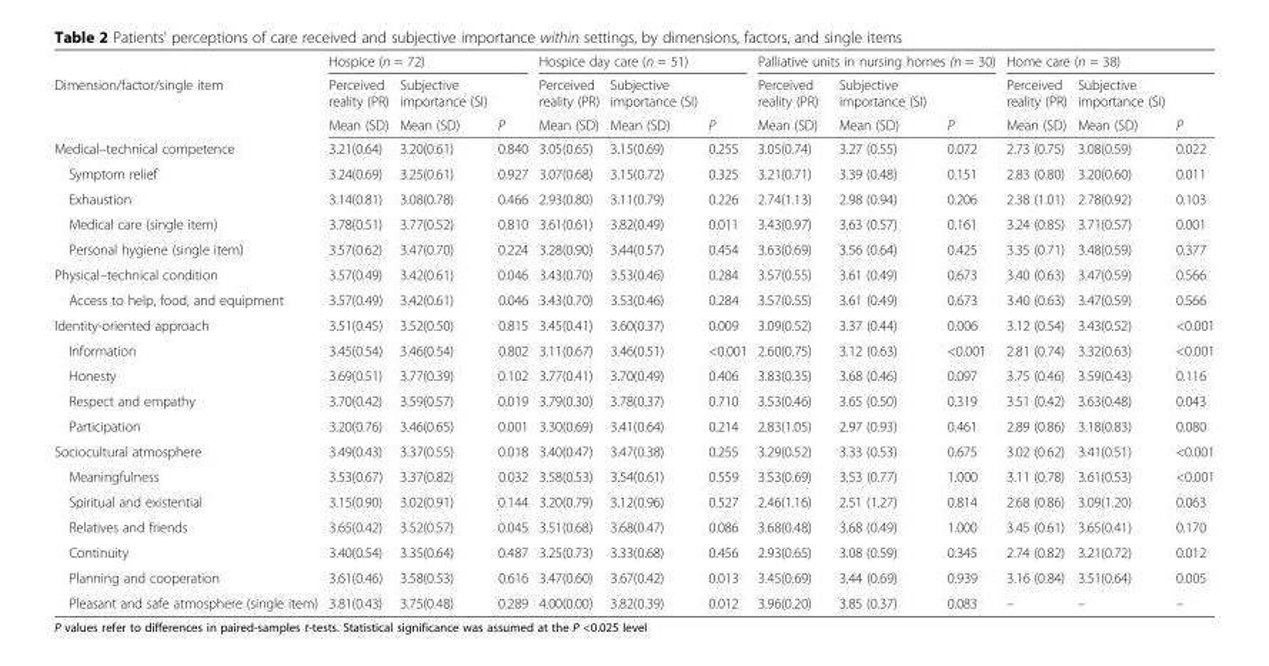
<table><thead><tr><td rowspan="3">Dimension/factor/single item</td><td colspan="3">Hospice (n = 72)</td><td colspan="3">Hospice day care (n = 51)</td><td colspan="3">Palliative units in nursing homes (n = 30)</td><td colspan="3">Home care (n = 38)</td></tr><tr><td rowspan="2">Perceived reality (PR) Mean (SD)</td><td rowspan="2">Subjective importance (SI) Mean (SD)</td><td rowspan="2">P</td><td rowspan="2">Perceived reality (PR) Mean (SD)</td><td rowspan="2">Subjective importance (SI) Mean (SD)</td><td rowspan="2">P</td><td rowspan="2">Perceived reality (PR) Mean (SD)</td><td rowspan="2">Subjective importance (SI) Mean (SD)</td><td rowspan="2">P</td><td rowspan="2">Perceived reality (PR) Mean (SD)</td><td rowspan="2">Subjective importance (SI) Mean (SD)</td><td rowspan="2">P</td></tr><tr></tr></thead><tbody><tr><td>Medical–technical competence</td><td>3.21(0.64)</td><td>3.20(0.61)</td><td>0.840</td><td>3.05(0.65)</td><td>3.15(0.69)</td><td>0.255</td><td>3.05(0.74)</td><td>3.27 (0.55)</td><td>0.072</td><td>2.73 (0.75)</td><td>3.08(0.59)</td><td>0.022</td></tr><tr><td>Symptom relief</td><td>3.24(0.69)</td><td>3.25(0.61)</td><td>0.927</td><td>3.07(0.68)</td><td>3.15(0.72)</td><td>0.325</td><td>3.21(0.71)</td><td>3.39 (0.48)</td><td>0.151</td><td>2.83 (0.80)</td><td>3.20(0.60)</td><td>0.011</td></tr><tr><td>Exhaustion</td><td>3.14(0.81)</td><td>3.08(0.78)</td><td>0.466</td><td>2.93(0.80)</td><td>3.11(0.79)</td><td>0.226</td><td>2.74(1.13)</td><td>2.98 (0.94)</td><td>0.206</td><td>2.38 (1.01)</td><td>2.78(0.92)</td><td>0.103</td></tr><tr><td>Medical care (single item)</td><td>3.78(0.51)</td><td>3.77(0.52)</td><td>0.810</td><td>3.61(0.61)</td><td>3.82(0.49)</td><td>0.011</td><td>3.43(0.97)</td><td>3.63 (0.57)</td><td>0.161</td><td>3.24 (0.85)</td><td>3.71(0.57)</td><td>0.001</td></tr><tr><td>Personal hygiene (single item)</td><td>3.57(0.62)</td><td>3.47(0.70)</td><td>0.224</td><td>3.28(0.90)</td><td>3.44(0.57)</td><td>0.454</td><td>3.63(0.69)</td><td>3.56 (0.64)</td><td>0.425</td><td>3.35 (0.71)</td><td>3.48(0.59)</td><td>0.377</td></tr><tr><td>Physical–technical condition</td><td>3.57(0.49)</td><td>3.42(0.61)</td><td>0.046</td><td>3.43(0.70)</td><td>3.53(0.46)</td><td>0.284</td><td>3.57(0.55)</td><td>3.61 (0.49)</td><td>0.673</td><td>3.40 (0.63)</td><td>3.47(0.59)</td><td>0.566</td></tr><tr><td>Access to help, food, and equipment</td><td>3.57(0.49)</td><td>3.42(0.61)</td><td>0.046</td><td>3.43(0.70)</td><td>3.53(0.46)</td><td>0.284</td><td>3.57(0.55)</td><td>3.61 (0.49)</td><td>0.673</td><td>3.40 (0.63)</td><td>3.47(0.59)</td><td>0.566</td></tr><tr><td>Identity-oriented approach</td><td>3.51(0.45)</td><td>3.52(0.50)</td><td>0.815</td><td>3.45(0.41)</td><td>3.60(0.37)</td><td>0.009</td><td>3.09(0.52)</td><td>3.37 (0.44)</td><td>0.006</td><td>3.12 (0.54)</td><td>3.43(0.52)</td><td>&lt;0.001</td></tr><tr><td>Information</td><td>3.45(0.54)</td><td>3.46(0.54)</td><td>0.802</td><td>3.11(0.67)</td><td>3.46(0.51)</td><td>&lt;0.001</td><td>2.60(0.75)</td><td>3.12 (0.63)</td><td>&lt;0.001</td><td>2.81 (0.74)</td><td>3.32(0.63)</td><td>&lt;0.001</td></tr><tr><td>Honesty</td><td>3.69(0.51)</td><td>3.77(0.39)</td><td>0.102</td><td>3.77(0.41)</td><td>3.70(0.49)</td><td>0.406</td><td>3.83(0.35)</td><td>3.68 (0.46)</td><td>0.097</td><td>3.75 (0.46)</td><td>3.59(0.43)</td><td>0.116</td></tr><tr><td>Respect and empathy</td><td>3.70(0.42)</td><td>3.59(0.57)</td><td>0.019</td><td>3.79(0.30)</td><td>3.78(0.37)</td><td>0.710</td><td>3.53(0.46)</td><td>3.65 (0.50)</td><td>0.319</td><td>3.51 (0.42)</td><td>3.63(0.48)</td><td>0.043</td></tr><tr><td>Participation</td><td>3.20(0.76)</td><td>3.46(0.65)</td><td>0.001</td><td>3.30(0.69)</td><td>3.41(0.64)</td><td>0.214</td><td>2.83(1.05)</td><td>2.97 (0.93)</td><td>0.461</td><td>2.89 (0.86)</td><td>3.18(0.83)</td><td>0.080</td></tr><tr><td>Sociocultural atmosphere</td><td>3.49(0.43)</td><td>3.37(0.55)</td><td>0.018</td><td>3.40(0.47)</td><td>3.47(0.38)</td><td>0.255</td><td>3.29(0.52)</td><td>3.33 (0.53)</td><td>0.675</td><td>3.02 (0.62)</td><td>3.41(0.51)</td><td>&lt;0.001</td></tr><tr><td>Meaningfulness</td><td>3.53(0.67)</td><td>3.37(0.82)</td><td>0.032</td><td>3.58(0.53)</td><td>3.54(0.61)</td><td>0.559</td><td>3.53(0.69)</td><td>3.53 (0.77)</td><td>1.000</td><td>3.11 (0.78)</td><td>3.61(0.53)</td><td>&lt;0.001</td></tr><tr><td>Spiritual and existential</td><td>3.15(0.90)</td><td>3.02(0.91)</td><td>0.144</td><td>3.20(0.79)</td><td>3.12(0.96)</td><td>0.527</td><td>2.46(1.16)</td><td>2.51 (1.27)</td><td>0.814</td><td>2.68 (0.86)</td><td>3.09(1.20)</td><td>0.063</td></tr><tr><td>Relatives and friends</td><td>3.65(0.42)</td><td>3.52(0.57)</td><td>0.045</td><td>3.51(0.68)</td><td>3.68(0.47)</td><td>0.086</td><td>3.68(0.48)</td><td>3.68 (0.49)</td><td>1.000</td><td>3.45 (0.61)</td><td>3.65(0.41)</td><td>0.170</td></tr><tr><td>Continuity</td><td>3.40(0.54)</td><td>3.35(0.64)</td><td>0.487</td><td>3.25(0.73)</td><td>3.33(0.68)</td><td>0.456</td><td>2.93(0.65)</td><td>3.08 (0.59)</td><td>0.345</td><td>2.74 (0.82)</td><td>3.21(0.72)</td><td>0.012</td></tr><tr><td>Planning and cooperation</td><td>3.61(0.46)</td><td>3.58(0.53)</td><td>0.616</td><td>3.47(0.60)</td><td>3.67(0.42)</td><td>0.013</td><td>3.45(0.69)</td><td>3.44 (0.69)</td><td>0.939</td><td>3.16 (0.84)</td><td>3.51(0.64)</td><td>0.005</td></tr><tr><td>Pleasant and safe atmosphere (single item)</td><td>3.81(0.43)</td><td>3.75(0.48)</td><td>0.289</td><td>4.00(0.00)</td><td>3.82(0.39)</td><td>0.012</td><td>3.96(0.20)</td><td>3.85 (0.37)</td><td>0.083</td><td>–</td><td>–</td><td>–</td></tr></tbody></table>